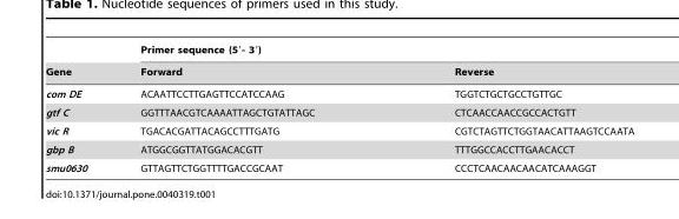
<table><thead><tr><td rowspan="2">Gene</td><td colspan="2">Primer sequence (5′- 3′)</td></tr><tr><td>Forward</td><td>Reverse</td></tr></thead><tbody><tr><td>com DE</td><td>ACAATTCCTTGAGTTCCATCCAAG</td><td>TGGTCTGCTGCCTGTTGC</td></tr><tr><td>gtf C</td><td>GGTTTAACGTCAAAATTAGCTGTATTAGC</td><td>CTCAACCAACCGCCACTGTT</td></tr><tr><td>vic R</td><td>TGACACGATTACAGCCTTTGATG</td><td>CGTCTAGTTCTGGTAACATTAAGTCCAATA</td></tr><tr><td>gbp B</td><td>ATGGCGGTTATGGACACGTT</td><td>TTTGGCCACCTTGAACACCT</td></tr><tr><td>smu0630</td><td>GTTAGTTCTGGTTTTGACCGCAAT</td><td>CCCTCAACAACAACATCAAAGGT</td></tr></tbody></table>